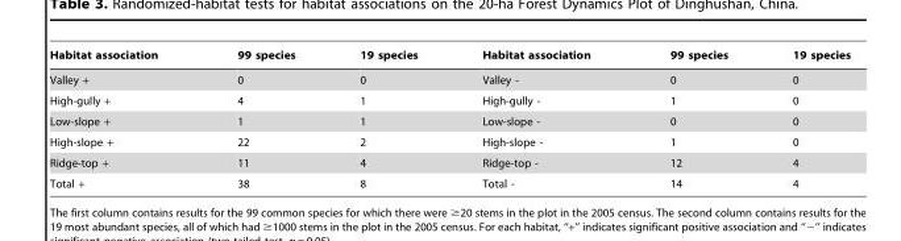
<table><thead><tr><td>Habitat association</td><td>99 species</td><td>19 species</td><td>Habitat association</td><td>99 species</td><td>19 species</td></tr></thead><tbody><tr><td>Valley +</td><td>0</td><td>0</td><td>Valley -</td><td>0</td><td>0</td></tr><tr><td>High-gully +</td><td>4</td><td>1</td><td>High-gully -</td><td>1</td><td>0</td></tr><tr><td>Low-slope +</td><td>1</td><td>1</td><td>Low-slope -</td><td>0</td><td>0</td></tr><tr><td>High-slope +</td><td>22</td><td>2</td><td>High-slope -</td><td>1</td><td>0</td></tr><tr><td>Ridge-top +</td><td>11</td><td>4</td><td>Ridge-top -</td><td>12</td><td>4</td></tr><tr><td>Total +</td><td>38</td><td>8</td><td>Total -</td><td>14</td><td>4</td></tr></tbody></table>